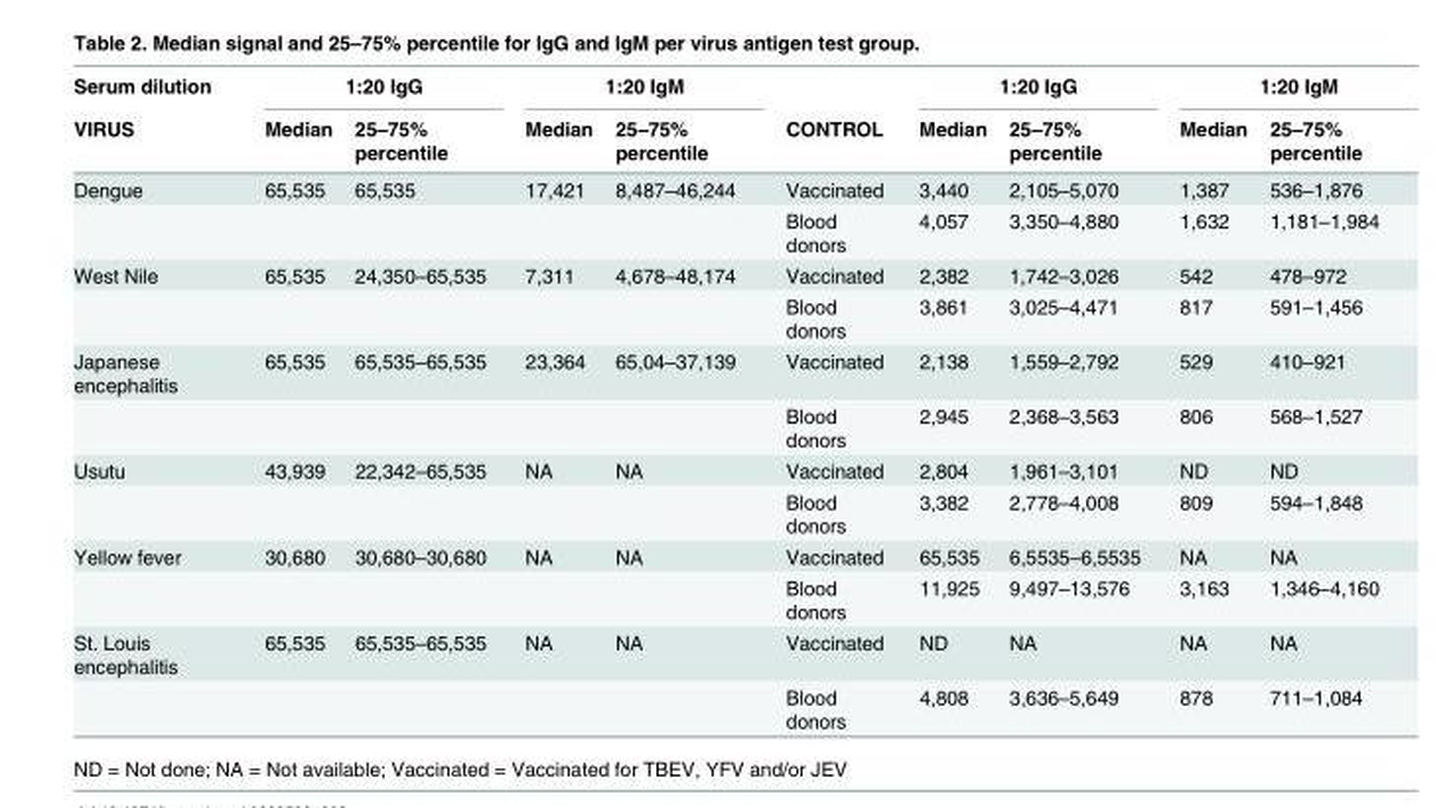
<table><thead><tr><td rowspan="2">Serum dilution VIRUS</td><td colspan="2">1:20 IgG</td><td colspan="2">1:20 IgM</td><td rowspan="2">CONTROL</td><td colspan="2">1:20 IgG</td><td colspan="2">1:20 IgM</td></tr><tr><td>Median</td><td>25–75% percentile</td><td>Median</td><td>25–75% percentile</td><td>Median</td><td>25–75% percentile</td><td>Median</td><td>25–75% percentile</td></tr></thead><tbody><tr><td rowspan="2">Dengue</td><td>65,535</td><td>65,535</td><td>17,421</td><td>8,487–46,244</td><td>Vaccinated</td><td>3,440</td><td>2,105–5,070</td><td>1,387</td><td>536–1,876</td></tr><tr><td></td><td></td><td></td><td></td><td>Blood donors</td><td>4,057</td><td>3,350–4,880</td><td>1,632</td><td>1,181–1,984</td></tr><tr><td rowspan="2">West Nile</td><td>65,535</td><td>24,350–65,535</td><td>7,311</td><td>4,678–48,174</td><td>Vaccinated</td><td>2,382</td><td>1,742–3,026</td><td>542</td><td>478–972</td></tr><tr><td></td><td></td><td></td><td></td><td>Blood donors</td><td>3,861</td><td>3,025–4,471</td><td>817</td><td>591–1,456</td></tr><tr><td rowspan="2">Japanese encephalitis</td><td>65,535</td><td>65,535–65,535</td><td>23,364</td><td>65,04–37,139</td><td>Vaccinated</td><td>2,138</td><td>1,559–2,792</td><td>529</td><td>410–921</td></tr><tr><td></td><td></td><td></td><td></td><td>Blood donors</td><td>2,945</td><td>2,368–3,563</td><td>806</td><td>568–1,527</td></tr><tr><td rowspan="2">Usutu</td><td>43,939</td><td>22,342–65,535</td><td>NA</td><td>NA</td><td>Vaccinated</td><td>2,804</td><td>1,961–3,101</td><td>ND</td><td>ND</td></tr><tr><td></td><td></td><td></td><td></td><td>Blood donors</td><td>3,382</td><td>2,778–4,008</td><td>809</td><td>594–1,848</td></tr><tr><td rowspan="2">Yellow fever</td><td>30,680</td><td>30,680–30,680</td><td>NA</td><td>NA</td><td>Vaccinated</td><td>65,535</td><td>6,5535–6,5535</td><td>NA</td><td>NA</td></tr><tr><td></td><td></td><td></td><td></td><td>Blood donors</td><td>11,925</td><td>9,497–13,576</td><td>3,163</td><td>1,346–4,160</td></tr><tr><td rowspan="2">St. Louis encephalitis</td><td>65,535</td><td>65,535–65,535</td><td>NA</td><td>NA</td><td>Vaccinated</td><td>ND</td><td>NA</td><td>NA</td><td>NA</td></tr><tr><td></td><td></td><td></td><td></td><td>Blood donors</td><td>4,808</td><td>3,636–5,649</td><td>878</td><td>711–1,084</td></tr></tbody></table>